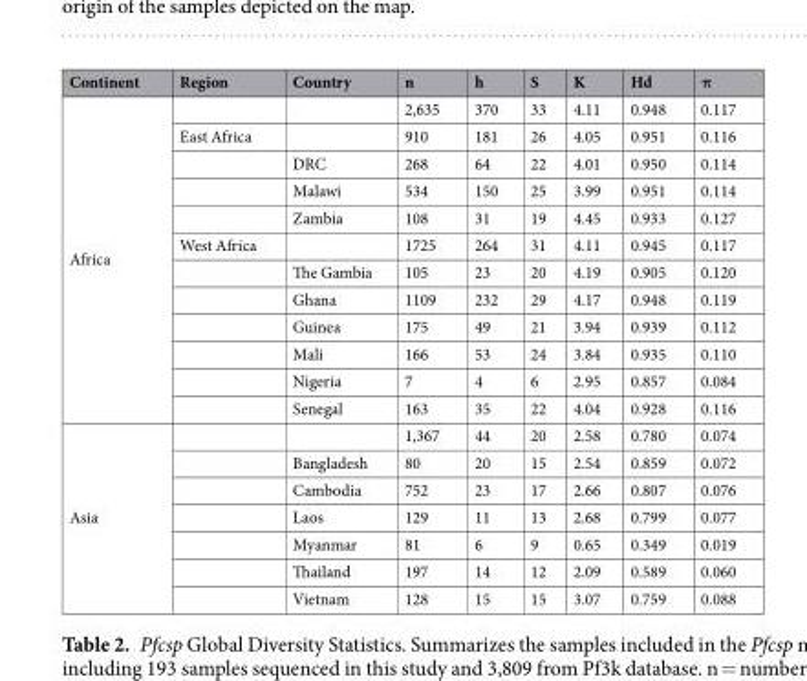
<table><thead><tr><td>Continent</td><td>Region</td><td>Country</td><td>n</td><td>h</td><td>S</td><td>K</td><td>Hd</td><td>π</td></tr></thead><tbody><tr><td rowspan="12">Africa</td><td></td><td></td><td>2,635</td><td>370</td><td>33</td><td>4.11</td><td>0.948</td><td>0.117</td></tr><tr><td>East Africa</td><td></td><td>910</td><td>181</td><td>26</td><td>4.05</td><td>0.951</td><td>0.116</td></tr><tr><td></td><td>DRC</td><td>268</td><td>64</td><td>22</td><td>4.01</td><td>0.950</td><td>0.114</td></tr><tr><td></td><td>Malawi</td><td>534</td><td>150</td><td>25</td><td>3.99</td><td>0.951</td><td>0.114</td></tr><tr><td></td><td>Zambia</td><td>108</td><td>31</td><td>19</td><td>4.45</td><td>0.933</td><td>0.127</td></tr><tr><td>West Africa</td><td></td><td>1725</td><td>264</td><td>31</td><td>4.11</td><td>0.945</td><td>0.117</td></tr><tr><td></td><td>The Gambia</td><td>105</td><td>23</td><td>20</td><td>4.19</td><td>0.905</td><td>0.120</td></tr><tr><td></td><td>Ghana</td><td>1109</td><td>232</td><td>29</td><td>4.17</td><td>0.948</td><td>0.119</td></tr><tr><td></td><td>Guinea</td><td>175</td><td>49</td><td>21</td><td>3.94</td><td>0.939</td><td>0.112</td></tr><tr><td></td><td>Mali</td><td>166</td><td>53</td><td>24</td><td>3.84</td><td>0.935</td><td>0.110</td></tr><tr><td></td><td>Nigeria</td><td>7</td><td>4</td><td>6</td><td>2.95</td><td>0.857</td><td>0.084</td></tr><tr><td></td><td>Senegal</td><td>163</td><td>35</td><td>22</td><td>4.04</td><td>0.928</td><td>0.116</td></tr><tr><td rowspan="7">Asia</td><td></td><td></td><td>1,367</td><td>44</td><td>20</td><td>2.58</td><td>0.780</td><td>0.074</td></tr><tr><td></td><td>Bangladesh</td><td>80</td><td>20</td><td>15</td><td>2.54</td><td>0.859</td><td>0.072</td></tr><tr><td></td><td>Cambodia</td><td>752</td><td>23</td><td>17</td><td>2.66</td><td>0.807</td><td>0.076</td></tr><tr><td></td><td>Laos</td><td>129</td><td>11</td><td>13</td><td>2.68</td><td>0.799</td><td>0.077</td></tr><tr><td></td><td>Myanmar</td><td>81</td><td>6</td><td>9</td><td>0.65</td><td>0.349</td><td>0.019</td></tr><tr><td></td><td>Thailand</td><td>197</td><td>14</td><td>12</td><td>2.09</td><td>0.589</td><td>0.060</td></tr><tr><td></td><td>Vietnam</td><td>128</td><td>15</td><td>15</td><td>3.07</td><td>0.759</td><td>0.088</td></tr></tbody></table>